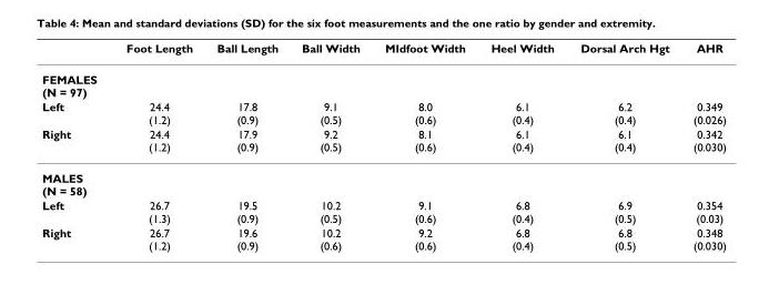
<table><thead><tr><td></td><td>Foot Length</td><td>Ball Length</td><td>Ball Width</td><td>MIdfoot Width</td><td>Heel Width</td><td>Dorsal Arch Hgt</td><td>AHR</td></tr></thead><tbody><tr><td colspan="8">FEMALES (N = 97)</td></tr><tr><td>Left</td><td>24.4 (1.2)</td><td>17.8 (0.9)</td><td>9.1 (0.5)</td><td>8.0 (0.6)</td><td>6.1 (0.4)</td><td>6.2 (0.4)</td><td>0.349 (0.026)</td></tr><tr><td>Right</td><td>24.4 (1.2)</td><td>17.9 (0.9)</td><td>9.2 (0.5)</td><td>8.1 (0.6)</td><td>6.1 (0.4)</td><td>6.1 (0.4)</td><td>0.342 (0.030)</td></tr><tr><td colspan="8">MALES (N = 58)</td></tr><tr><td>Left</td><td>26.7 (1.3)</td><td>19.5 (0.9)</td><td>10.2 (0.5)</td><td>9.1 (0.6)</td><td>6.8 (0.4)</td><td>6.9 (0.5)</td><td>0.354 (0.03)</td></tr><tr><td>Right</td><td>26.7 (1.2)</td><td>19.6 (0.9)</td><td>10.2 (0.6)</td><td>9.2 (0.6)</td><td>6.8 (0.4)</td><td>6.8 (0.5)</td><td>0.348 (0.030)</td></tr></tbody></table>